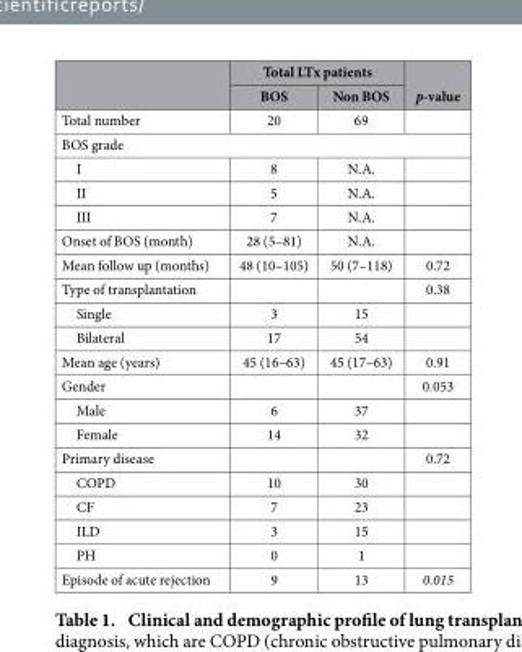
<table><thead><tr><td rowspan="2"></td><td colspan="2">Total LTx patients</td><td rowspan="2">p-value</td></tr><tr><td>BOS</td><td>Non BOS</td></tr></thead><tbody><tr><td>Total number</td><td>20</td><td>69</td><td></td></tr><tr><td colspan="4">BOS grade</td></tr><tr><td>I</td><td>8</td><td>N.A.</td><td></td></tr><tr><td>II</td><td>5</td><td>N.A.</td><td></td></tr><tr><td>III</td><td>7</td><td>N.A.</td><td></td></tr><tr><td>Onset of BOS (month)</td><td>28 (5–81)</td><td>N.A.</td><td></td></tr><tr><td>Mean follow up (months)</td><td>48 (10–105)</td><td>50 (7–118)</td><td>0.72</td></tr><tr><td>Type of transplantation</td><td></td><td></td><td>0.38</td></tr><tr><td>Single</td><td>3</td><td>15</td><td></td></tr><tr><td>Bilateral</td><td>17</td><td>54</td><td></td></tr><tr><td>Mean age (years)</td><td>45 (16–63)</td><td>45 (17–63)</td><td>0.91</td></tr><tr><td>Gender</td><td></td><td></td><td>0.053</td></tr><tr><td>Male</td><td>6</td><td>37</td><td></td></tr><tr><td>Female</td><td>14</td><td>32</td><td></td></tr><tr><td>Primary disease</td><td></td><td></td><td>0.72</td></tr><tr><td>COPD</td><td>10</td><td>30</td><td></td></tr><tr><td>CF</td><td>7</td><td>23</td><td></td></tr><tr><td>ILD</td><td>3</td><td>15</td><td></td></tr><tr><td>PH</td><td>0</td><td>1</td><td></td></tr><tr><td>Episode of acute rejection</td><td>9</td><td>13</td><td>0.015</td></tr></tbody></table>